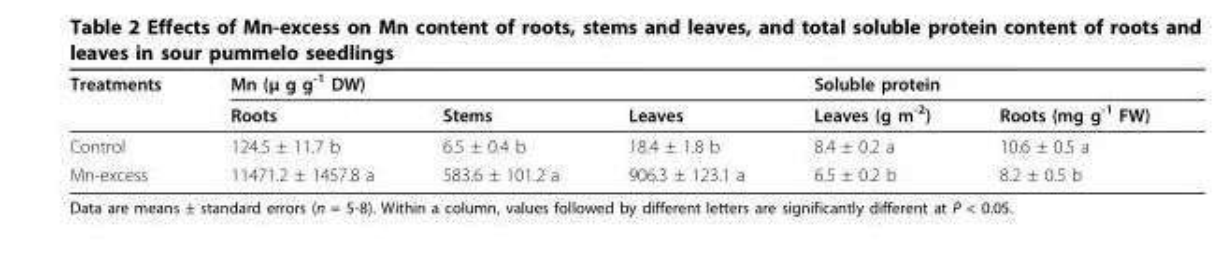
<table><thead><tr><td rowspan="2">Treatments</td><td colspan="3">Mn (μ g g<sup>-1</sup> DW)</td><td colspan="2">Soluble protein</td></tr><tr><td>Roots</td><td>Stems</td><td>Leaves</td><td>Leaves (g m<sup>-2</sup>)</td><td>Roots (mg g<sup>-1</sup> FW)</td></tr></thead><tbody><tr><td>Control</td><td>124.5 ± 11.7 b</td><td>6.5 ± 0.4 b</td><td>18.4 ± 1.8 b</td><td>8.4 ± 0.2 a</td><td>10.6 ± 0.5 a</td></tr><tr><td>Mn-excess</td><td>11471.2 ± 1457.8 a</td><td>583.6 ± 101.2 a</td><td>906.3 ± 123.1 a</td><td>6.5 ± 0.2 b</td><td>8.2 ± 0.5 b</td></tr></tbody></table>